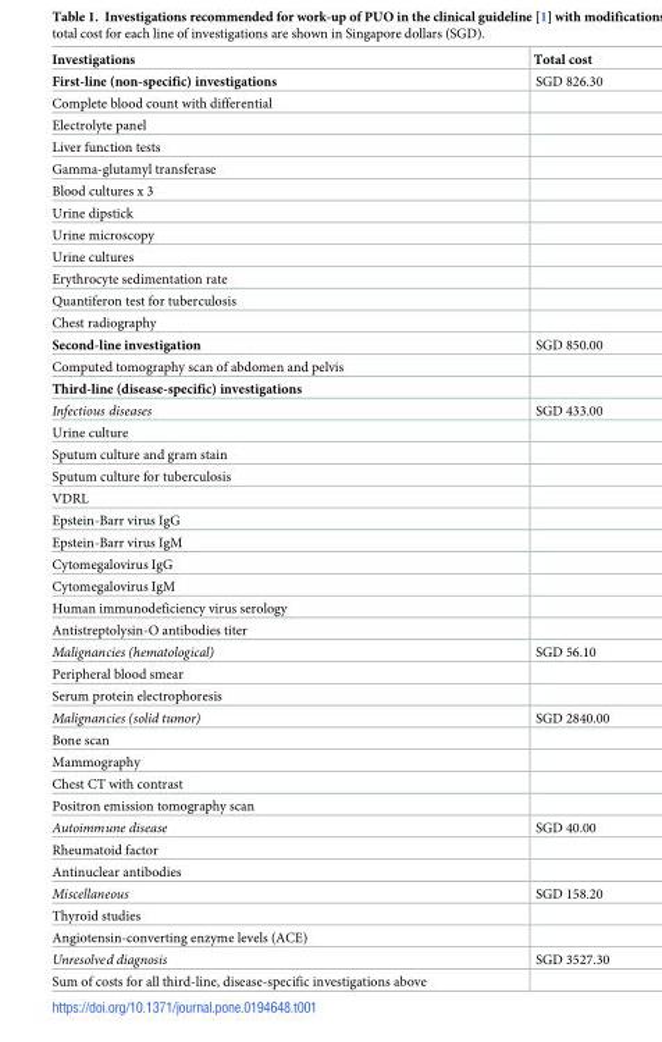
<table><thead><tr><td>Investigations</td><td>Total cost</td></tr></thead><tbody><tr><td>First-line (non-specific) investigations</td><td>SGD 826.30</td></tr><tr><td colspan="2">Complete blood count with differential</td></tr><tr><td colspan="2">Electrolyte panel</td></tr><tr><td colspan="2">Liver function tests</td></tr><tr><td colspan="2">Gamma-glutamyl transferase</td></tr><tr><td colspan="2">Blood cultures x 3</td></tr><tr><td colspan="2">Urine dipstick</td></tr><tr><td colspan="2">Urine microscopy</td></tr><tr><td colspan="2">Urine cultures</td></tr><tr><td colspan="2">Erythrocyte sedimentation rate</td></tr><tr><td colspan="2">Quantiferon test for tuberculosis</td></tr><tr><td colspan="2">Chest radiography</td></tr><tr><td>Second-line investigation</td><td>SGD 850.00</td></tr><tr><td colspan="2">Computed tomography scan of abdomen and pelvis</td></tr><tr><td colspan="2">Third-line (disease-specific) investigations</td></tr><tr><td>Infectious diseases</td><td>SGD 433.00</td></tr><tr><td colspan="2">Urine culture</td></tr><tr><td colspan="2">Sputum culture and gram stain</td></tr><tr><td colspan="2">Sputum culture for tuberculosis</td></tr><tr><td colspan="2">VDRL</td></tr><tr><td colspan="2">Epstein-Barr virus IgG</td></tr><tr><td colspan="2">Epstein-Barr virus IgM</td></tr><tr><td colspan="2">Cytomegalovirus IgG</td></tr><tr><td colspan="2">Cytomegalovirus IgM</td></tr><tr><td colspan="2">Human immunodeficiency virus serology</td></tr><tr><td colspan="2">Antistreptolysin-O antibodies titer</td></tr><tr><td>Malignancies (hematological)</td><td>SGD 56.10</td></tr><tr><td colspan="2">Peripheral blood smear</td></tr><tr><td colspan="2">Serum protein electrophoresis</td></tr><tr><td>Malignancies (solid tumor)</td><td>SGD 2840.00</td></tr><tr><td colspan="2">Bone scan</td></tr><tr><td colspan="2">Mammography</td></tr><tr><td colspan="2">Chest CT with contrast</td></tr><tr><td colspan="2">Positron emission tomography scan</td></tr><tr><td>Autoimmune disease</td><td>SGD 40.00</td></tr><tr><td colspan="2">Rheumatoid factor</td></tr><tr><td colspan="2">Antinuclear antibodies</td></tr><tr><td>Miscellaneous</td><td>SGD 158.20</td></tr><tr><td colspan="2">Thyroid studies</td></tr><tr><td colspan="2">Angiotensin-converting enzyme levels (ACE)</td></tr><tr><td>Unresolved diagnosis</td><td>SGD 3527.30</td></tr><tr><td>Sum of costs for all third-line, disease-specific investigations above</td><td></td></tr></tbody></table>